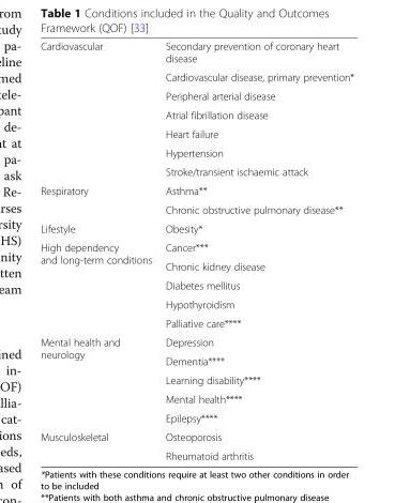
<table><tbody><tr><td rowspan="7">Cardiovascular</td><td>Secondary prevention of coronary heart disease</td></tr><tr><td>Cardiovascular disease, primary prevention*</td></tr><tr><td>Peripheral arterial disease</td></tr><tr><td>Atrial fibrillation disease</td></tr><tr><td>Heart failure</td></tr><tr><td>Hypertension</td></tr><tr><td>Stroke/transient ischaemic attack</td></tr><tr><td rowspan="2">Respiratory</td><td>Asthma**</td></tr><tr><td>Chronic obstructive pulmonary disease**</td></tr><tr><td>Lifestyle</td><td>Obesity*</td></tr><tr><td rowspan="5">High dependency and long-term conditions</td><td>Cancer***</td></tr><tr><td>Chronic kidney disease</td></tr><tr><td>Diabetes mellitus</td></tr><tr><td>Hypothyroidism</td></tr><tr><td>Palliative care****</td></tr><tr><td rowspan="5">Mental health and neurology</td><td>Depression</td></tr><tr><td>Dementia****</td></tr><tr><td>Learning disability****</td></tr><tr><td>Mental health****</td></tr><tr><td>Epilepsy****</td></tr><tr><td rowspan="2">Musculoskeletal</td><td>Osteoporosis</td></tr><tr><td>Rheumatoid arthritis</td></tr></tbody></table>